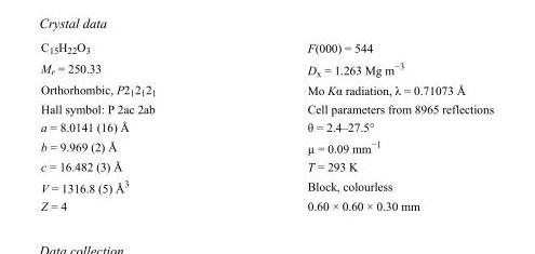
<table><tbody><tr><td>C<sub>15</sub>H<sub>22</sub>O<sub>3</sub></td><td>F(000) = 544</td></tr><tr><td>M<sub>r</sub> = 250.33</td><td>D<sub>x</sub> = 1.263 Mg m<sup>−3</sup></td></tr><tr><td>Orthorhombic, P2<sub>1</sub>2<sub>1</sub>2<sub>1</sub></td><td>Mo Kα radiation, λ = 0.71073 Å</td></tr><tr><td>Hall symbol: P 2ac 2ab</td><td>Cell parameters from 8965 reflections</td></tr><tr><td>a = 8.0141 (16) Å</td><td>θ = 2.4–27.5°</td></tr><tr><td>b = 9.969 (2) Å</td><td>µ = 0.09 mm<sup>−1</sup></td></tr><tr><td>c = 16.482 (3) Å</td><td>T = 293 K</td></tr><tr><td>V = 1316.8 (5) Å<sup>3</sup></td><td>Block, colourless</td></tr><tr><td>Z = 4</td><td>0.60 × 0.60 × 0.30 mm</td></tr></tbody></table>